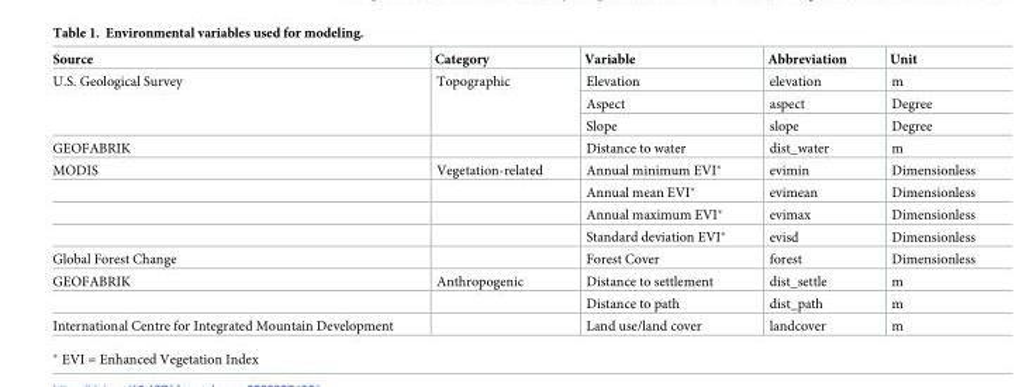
<table><thead><tr><td>Source</td><td>Category</td><td>Variable</td><td>Abbreviation</td><td>Unit</td></tr></thead><tbody><tr><td rowspan="3">U.S. Geological Survey</td><td rowspan="3">Topographic</td><td>Elevation</td><td>elevation</td><td>m</td></tr><tr><td>Aspect</td><td>aspect</td><td>Degree</td></tr><tr><td>Slope</td><td>slope</td><td>Degree</td></tr><tr><td>GEOFABRIK</td><td></td><td>Distance to water</td><td>dist_water</td><td>m</td></tr><tr><td rowspan="4">MODIS</td><td>Vegetation-related</td><td>Annual minimum EVI*</td><td>evimin</td><td>Dimensionless</td></tr><tr><td></td><td>Annual mean EVI*</td><td>evimean</td><td>Dimensionless</td></tr><tr><td></td><td>Annual maximum EVI*</td><td>evimax</td><td>Dimensionless</td></tr><tr><td></td><td>Standard deviation EVI*</td><td>evisd</td><td>Dimensionless</td></tr><tr><td>Global Forest Change</td><td></td><td>Forest Cover</td><td>forest</td><td>Dimensionless</td></tr><tr><td rowspan="2">GEOFABRIK</td><td>Anthropogenic</td><td>Distance to settlement</td><td>dist_settle</td><td>m</td></tr><tr><td></td><td>Distance to path</td><td>dist_path</td><td>m</td></tr><tr><td>International Centre for Integrated Mountain Development</td><td></td><td>Land use/land cover</td><td>landcover</td><td>m</td></tr></tbody></table>